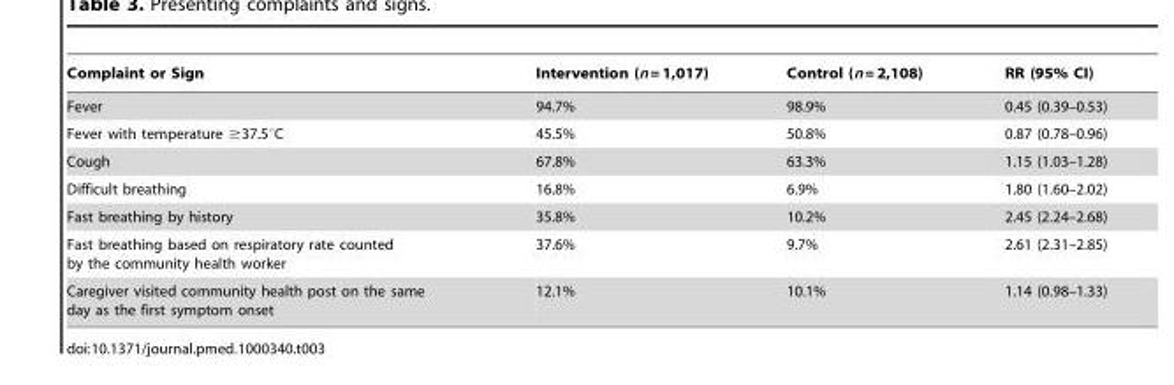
<table><thead><tr><td>Complaint or Sign</td><td>Intervention (n = 1,017)</td><td>Control (n = 2,108)</td><td>RR (95% CI)</td></tr></thead><tbody><tr><td>Fever</td><td>94.7%</td><td>98.9%</td><td>0.45 (0.39–0.53)</td></tr><tr><td>Fever with temperature ≥37.5°C</td><td>45.5%</td><td>50.8%</td><td>0.87 (0.78–0.96)</td></tr><tr><td>Cough</td><td>67.8%</td><td>63.3%</td><td>1.15 (1.03–1.28)</td></tr><tr><td>Difficult breathing</td><td>16.8%</td><td>6.9%</td><td>1.80 (1.60–2.02)</td></tr><tr><td>Fast breathing by history</td><td>35.8%</td><td>10.2%</td><td>2.45 (2.24–2.68)</td></tr><tr><td>Fast breathing based on respiratory rate counted by the community health worker</td><td>37.6%</td><td>9.7%</td><td>2.61 (2.31–2.85)</td></tr><tr><td>Caregiver visited community health post on the same day as the first symptom onset</td><td>12.1%</td><td>10.1%</td><td>1.14 (0.98–1.33)</td></tr></tbody></table>